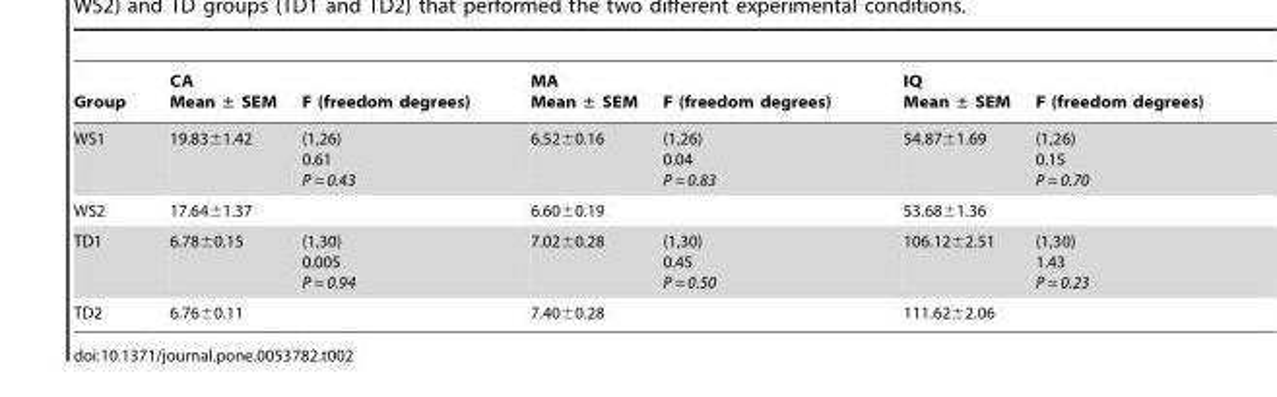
<table><thead><tr><td>Group</td><td>CA Mean ± SEM</td><td>F (freedom degrees)</td><td>MA Mean ± SEM</td><td>F (freedom degrees)</td><td>IQ Mean ± SEM</td><td>F (freedom degrees)</td></tr></thead><tbody><tr><td>WS1</td><td>19.83±1.42</td><td>(1,26) 0.61 P = 0.43</td><td>6.52±0.16</td><td>(1,26) 0.04 P = 0.83</td><td>54.87±1.69</td><td>(1,26) 0.15 P = 0.70</td></tr><tr><td>WS2</td><td>17.64±1.37</td><td></td><td>6.60±0.19</td><td></td><td>53.68±1.36</td><td></td></tr><tr><td>TD1</td><td>6.78±0.15</td><td>(1,30) 0.005 P = 0.94</td><td>7.02±0.28</td><td>(1,30) 0.45 P = 0.50</td><td>106.12±2.51</td><td>(1,30) 1.43 P = 0.23</td></tr><tr><td>TD2</td><td>6.76±0.11</td><td></td><td>7.40±0.28</td><td></td><td>111.62±2.06</td><td></td></tr></tbody></table>